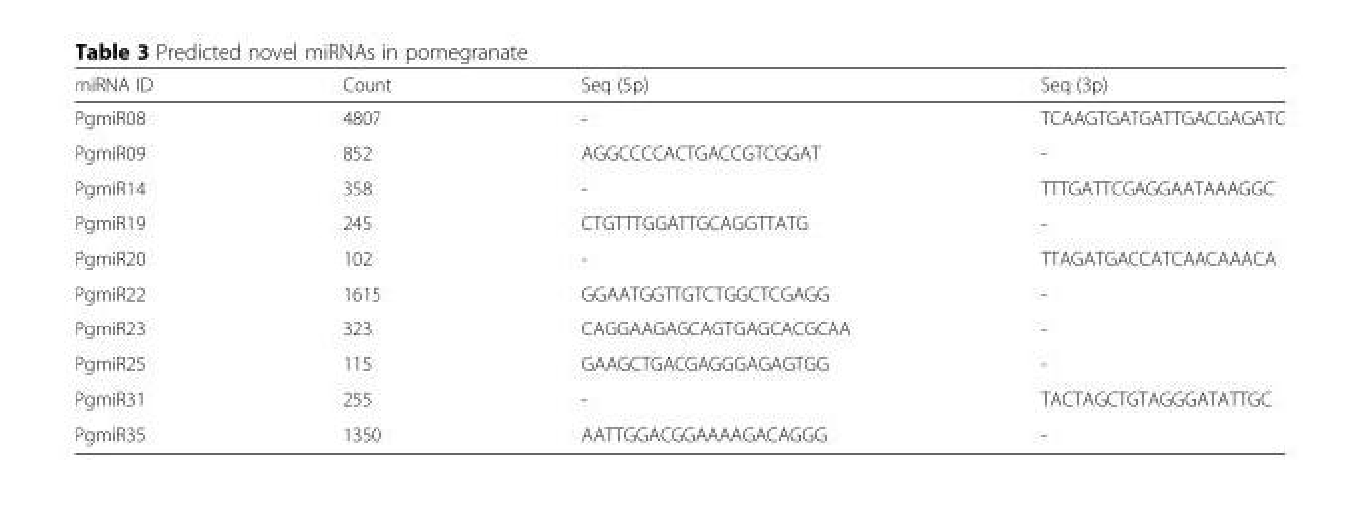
<table><thead><tr><td>miRNA ID</td><td>Count</td><td>Seq (5p)</td><td>Seq (3p)</td></tr></thead><tbody><tr><td>PgmiR08</td><td>4807</td><td>-</td><td>TCAAGTGATGATTGACGAGATC</td></tr><tr><td>PgmiR09</td><td>852</td><td>AGGCCCCACTGACCGTCGGAT</td><td>-</td></tr><tr><td>PgmiR14</td><td>358</td><td>-</td><td>TTTGATTCGAGGAATAAAGGC</td></tr><tr><td>PgmiR19</td><td>245</td><td>CTGTTTGGATTGCAGGTTATG</td><td>-</td></tr><tr><td>PgmiR20</td><td>102</td><td>-</td><td>TTAGATGACCATCAACAAACA</td></tr><tr><td>PgmiR22</td><td>1615</td><td>GGAATGGTTGTCTGGCTCGAGG</td><td>-</td></tr><tr><td>PgmiR23</td><td>323</td><td>CAGGAAGAGCAGTGAGCACGCAA</td><td>-</td></tr><tr><td>PgmiR25</td><td>115</td><td>GAAGCTGACGAGGGAGAGTGG</td><td>-</td></tr><tr><td>PgmiR31</td><td>255</td><td>-</td><td>TACTAGCTGTAGGGATATTGC</td></tr><tr><td>PgmiR35</td><td>1350</td><td>AATTGGACGGAAAAGACAGGG</td><td>-</td></tr></tbody></table>